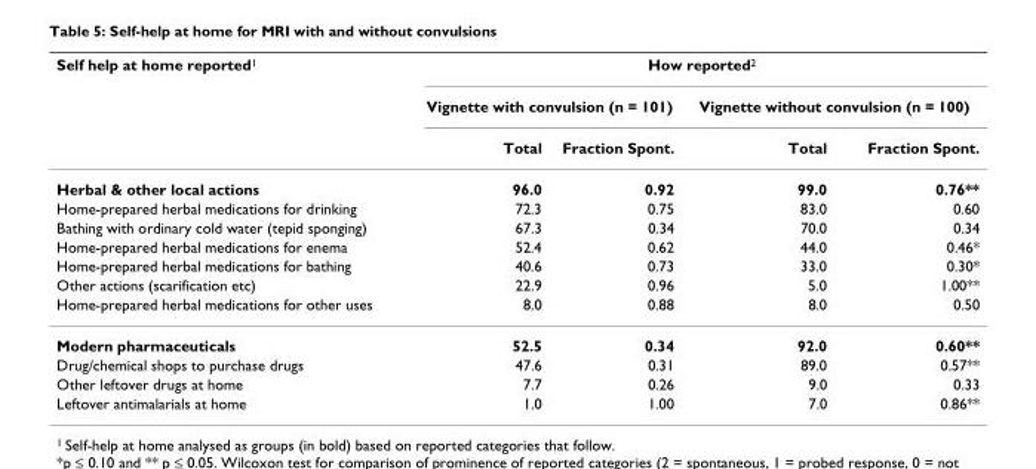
<table><thead><tr><td rowspan="3">Self help at home reported<sup>1</sup></td><td colspan="4">How reported<sup>2</sup></td></tr><tr><td colspan="2">Vignette with convulsion (n = 101)</td><td colspan="2">Vignette without convulsion (n = 100)</td></tr><tr><td>Total</td><td>Fraction Spont.</td><td>Total</td><td>Fraction Spont.</td></tr></thead><tbody><tr><td>Herbal &amp; other local actions</td><td>96.0</td><td>0.92</td><td>99.0</td><td>0.76**</td></tr><tr><td>Home-prepared herbal medications for drinking</td><td>72.3</td><td>0.75</td><td>83.0</td><td>0.60</td></tr><tr><td>Bathing with ordinary cold water (tepid sponging)</td><td>67.3</td><td>0.34</td><td>70.0</td><td>0.34</td></tr><tr><td>Home-prepared herbal medications for enema</td><td>52.4</td><td>0.62</td><td>44.0</td><td>0.46*</td></tr><tr><td>Home-prepared herbal medications for bathing</td><td>40.6</td><td>0.73</td><td>33.0</td><td>0.30*</td></tr><tr><td>Other actions (scarification etc)</td><td>22.9</td><td>0.96</td><td>5.0</td><td>1.00**</td></tr><tr><td>Home-prepared herbal medications for other uses</td><td>8.0</td><td>0.88</td><td>8.0</td><td>0.50</td></tr><tr><td>Modern pharmaceuticals</td><td>52.5</td><td>0.34</td><td>92.0</td><td>0.60**</td></tr><tr><td>Drug/chemical shops to purchase drugs</td><td>47.6</td><td>0.31</td><td>89.0</td><td>0.57**</td></tr><tr><td>Other leftover drugs at home</td><td>7.7</td><td>0.26</td><td>9.0</td><td>0.33</td></tr><tr><td>Leftover antimalarials at home</td><td>1.0</td><td>1.00</td><td>7.0</td><td>0.86**</td></tr></tbody></table>